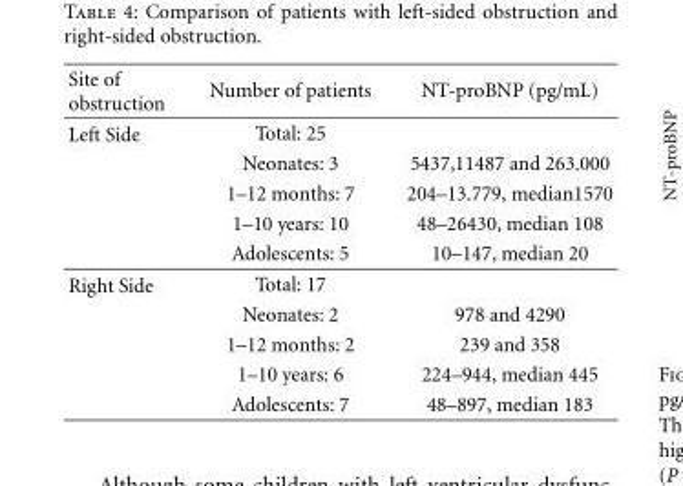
<table><thead><tr><td>Site of obstruction</td><td>Number of patients</td><td>NT-proBNP (pg/mL)</td></tr></thead><tbody><tr><td rowspan="5">Left Side</td><td>Total: 25</td><td></td></tr><tr><td>Neonates: 3</td><td>5437,11487 and 263.000</td></tr><tr><td>1–12 months: 7</td><td>204–13.779, median1570</td></tr><tr><td>1–10 years: 10</td><td>48–26430, median 108</td></tr><tr><td>Adolescents: 5</td><td>10–147, median 20</td></tr><tr><td rowspan="5">Right Side</td><td>Total: 17</td><td></td></tr><tr><td>Neonates: 2</td><td>978 and 4290</td></tr><tr><td>1–12 months: 2</td><td>239 and 358</td></tr><tr><td>1–10 years: 6</td><td>224–944, median 445</td></tr><tr><td>Adolescents: 7</td><td>48–897, median 183</td></tr></tbody></table>